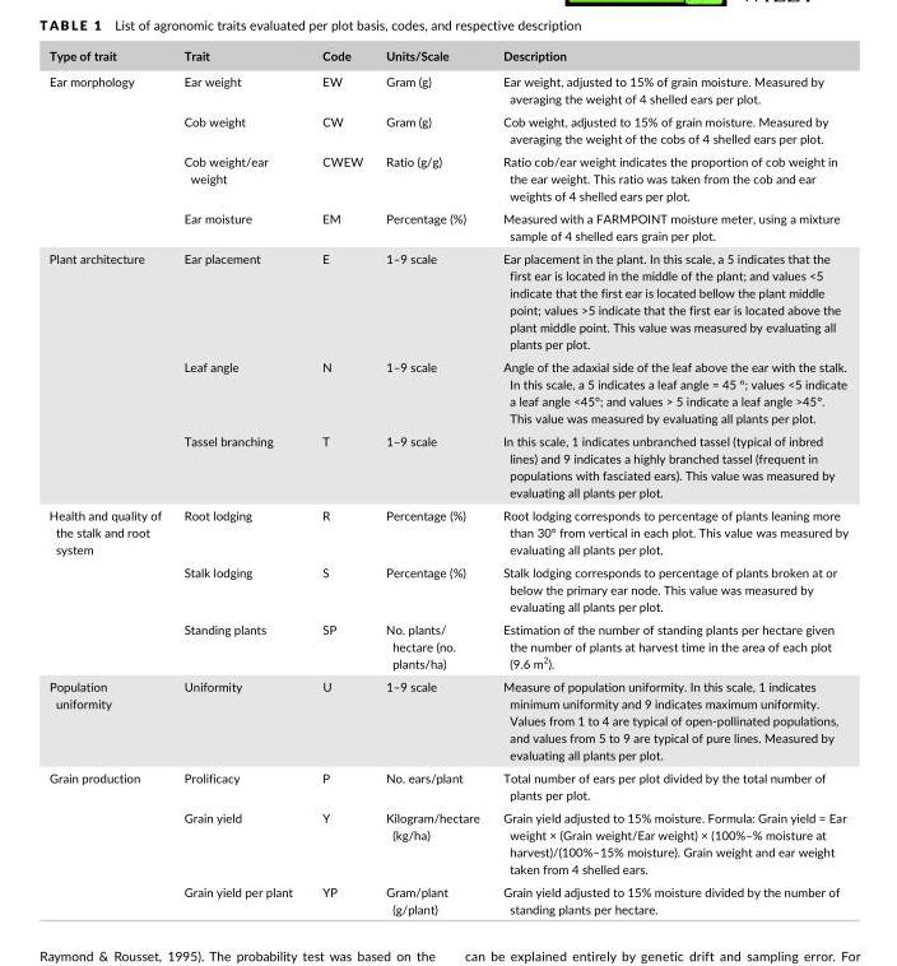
<table><thead><tr><td>Type of trait</td><td>Trait</td><td>Code</td><td>Units/Scale</td><td>Description</td></tr></thead><tbody><tr><td rowspan="4">Ear morphology</td><td>Ear weight</td><td>EW</td><td>Gram (g)</td><td>Ear weight, adjusted to 15% of grain moisture. Measured by averaging the weight of 4 shelled ears per plot.</td></tr><tr><td>Cob weight</td><td>CW</td><td>Gram (g)</td><td>Cob weight, adjusted to 15% of grain moisture. Measured by averaging the weight of the cobs of 4 shelled ears per plot.</td></tr><tr><td>Cob weight/ear weight</td><td>CWEW</td><td>Ratio (g/g)</td><td>Ratio cob/ear weight indicates the proportion of cob weight in the ear weight. This ratio was taken from the cob and ear weights of 4 shelled ears per plot.</td></tr><tr><td>Ear moisture</td><td>EM</td><td>Percentage (%)</td><td>Measured with a FARMPOINT moisture meter, using a mixture sample of 4 shelled ears grain per plot.</td></tr><tr><td rowspan="3">Plant architecture</td><td>Ear placement</td><td>E</td><td>1–9 scale</td><td>Ear placement in the plant. In this scale, a 5 indicates that the first ear is located in the middle of the plant; and values &lt;5 indicate that the first ear is located bellow the plant middle point; values &gt;5 indicate that the first ear is located above the plant middle point. This value was measured by evaluating all plants per plot.</td></tr><tr><td>Leaf angle</td><td>N</td><td>1–9 scale</td><td>Angle of the adaxial side of the leaf above the ear with the stalk. In this scale, a 5 indicates a leaf angle = 45 °; values &lt;5 indicate a leaf angle &lt;45°; and values &gt; 5 indicate a leaf angle &gt;45°. This value was measured by evaluating all plants per plot.</td></tr><tr><td>Tassel branching</td><td>T</td><td>1–9 scale</td><td>In this scale, 1 indicates unbranched tassel (typical of inbred lines) and 9 indicates a highly branched tassel (frequent in populations with fasciated ears). This value was measured by evaluating all plants per plot.</td></tr><tr><td rowspan="3">Health and quality of the stalk and root system</td><td>Root lodging</td><td>R</td><td>Percentage (%)</td><td>Root lodging corresponds to percentage of plants leaning more than 30° from vertical in each plot. This value was measured by evaluating all plants per plot.</td></tr><tr><td>Stalk lodging</td><td>S</td><td>Percentage (%)</td><td>Stalk lodging corresponds to percentage of plants broken at or below the primary ear node. This value was measured by evaluating all plants per plot.</td></tr><tr><td>Standing plants</td><td>SP</td><td>No. plants/ hectare (no. plants/ha)</td><td>Estimation of the number of standing plants per hectare given the number of plants at harvest time in the area of each plot (9.6 m<sup>2</sup>).</td></tr><tr><td>Population uniformity</td><td>Uniformity</td><td>U</td><td>1–9 scale</td><td>Measure of population uniformity. In this scale, 1 indicates minimum uniformity and 9 indicates maximum uniformity. Values from 1 to 4 are typical of open- pollinated populations, and values from 5 to 9 are typical of pure lines. Measured by evaluating all plants per plot.</td></tr><tr><td rowspan="3">Grain production</td><td>Prolificacy</td><td>P</td><td>No. ears/plant</td><td>Total number of ears per plot divided by the total number of plants per plot.</td></tr><tr><td>Grain yield</td><td>Y</td><td>Kilogram/hectare (kg/ha)</td><td>Grain yield adjusted to 15% moisture. Formula: Grain yield = Ear weight × (Grain weight/Ear weight) × (100%–% moisture at harvest)/(100%–15% moisture). Grain weight and ear weight taken from 4 shelled ears.</td></tr><tr><td>Grain yield per plant</td><td>YP</td><td>Gram/plant (g/plant)</td><td>Grain yield adjusted to 15% moisture divided by the number of standing plants per hectare.</td></tr></tbody></table>